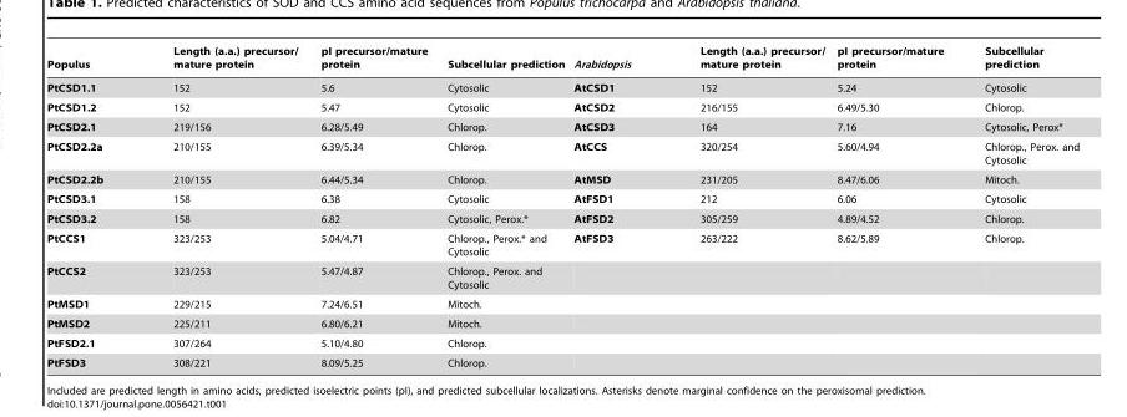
<table><thead><tr><td>Populus</td><td>Length (a.a.) precursor/ mature protein</td><td>pI precursor/mature protein</td><td>Subcellular prediction</td><td>Arabidopsis</td><td>Length (a.a.) precursor/ mature protein</td><td>pI precursor/mature protein</td><td>Subcellular prediction</td></tr></thead><tbody><tr><td>PtCSD1.1</td><td>152</td><td>5.6</td><td>Cytosolic</td><td>AtCSD1</td><td>152</td><td>5.24</td><td>Cytosolic</td></tr><tr><td>PtCSD1.2</td><td>152</td><td>5.47</td><td>Cytosolic</td><td>AtCSD2</td><td>216/155</td><td>6.49/5.30</td><td>Chlorop.</td></tr><tr><td>PtCSD2.1</td><td>219/156</td><td>6.28/5.49</td><td>Chlorop.</td><td>AtCSD3</td><td>164</td><td>7.16</td><td>Cytosolic, Perox*</td></tr><tr><td>PtCSD2.2a</td><td>210/155</td><td>6.39/5.34</td><td>Chlorop.</td><td>AtCCS</td><td>320/254</td><td>5.60/4.94</td><td>Chlorop., Perox. and Cytosolic</td></tr><tr><td>PtCSD2.2b</td><td>210/155</td><td>6.44/5.34</td><td>Chlorop.</td><td>AtMSD</td><td>231/205</td><td>8.47/6.06</td><td>Mitoch.</td></tr><tr><td>PtCSD3.1</td><td>158</td><td>6.38</td><td>Cytosolic</td><td>AtFSD1</td><td>212</td><td>6.06</td><td>Cytosolic</td></tr><tr><td>PtCSD3.2</td><td>158</td><td>6.82</td><td>Cytosolic, Perox.*</td><td>AtFSD2</td><td>305/259</td><td>4.89/4.52</td><td>Chlorop.</td></tr><tr><td>PtCCS1</td><td>323/253</td><td>5.04/4.71</td><td>Chlorop., Perox.* and Cytosolic</td><td>AtFSD3</td><td>263/222</td><td>8.62/5.89</td><td>Chlorop.</td></tr><tr><td>PtCCS2</td><td>323/253</td><td>5.47/4.87</td><td>Chlorop., Perox. and Cytosolic</td><td></td><td></td><td></td><td></td></tr><tr><td>PtMSD1</td><td>229/215</td><td>7.24/6.51</td><td>Mitoch.</td><td></td><td></td><td></td><td></td></tr><tr><td>PtMSD2</td><td>225/211</td><td>6.80/6.21</td><td>Mitoch.</td><td></td><td></td><td></td><td></td></tr><tr><td>PtFSD2.1</td><td>307/264</td><td>5.10/4.80</td><td>Chlorop.</td><td></td><td></td><td></td><td></td></tr><tr><td>PtFSD3</td><td>308/221</td><td>8.09/5.25</td><td>Chlorop.</td><td></td><td></td><td></td><td></td></tr></tbody></table>